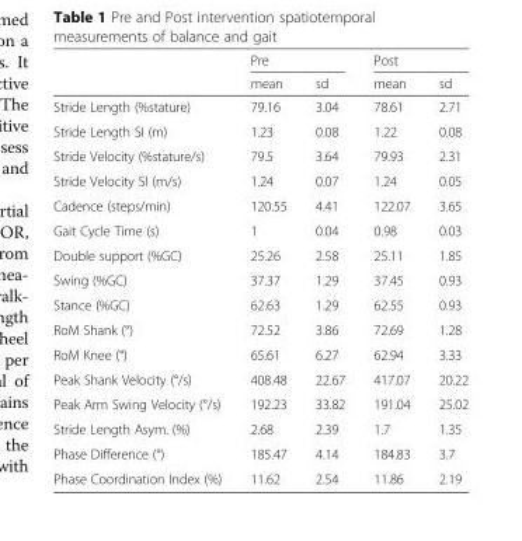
<table><thead><tr><td rowspan="2"></td><td colspan="2">Pre</td><td colspan="2">Post</td></tr><tr><td>mean</td><td>sd</td><td>mean</td><td>sd</td></tr></thead><tbody><tr><td>Stride Length (%stature)</td><td>79.16</td><td>3.04</td><td>78.61</td><td>2.71</td></tr><tr><td>Stride Length SI (m)</td><td>1.23</td><td>0.08</td><td>1.22</td><td>0.08</td></tr><tr><td>Stride Velocity (%stature/s)</td><td>79.5</td><td>3.64</td><td>79.93</td><td>2.31</td></tr><tr><td>Stride Velocity SI (m/s)</td><td>1.24</td><td>0.07</td><td>1.24</td><td>0.05</td></tr><tr><td>Cadence (steps/min)</td><td>120.55</td><td>4.41</td><td>122.07</td><td>3.65</td></tr><tr><td>Gait Cycle Time (s)</td><td>1</td><td>0.04</td><td>0.98</td><td>0.03</td></tr><tr><td>Double support (%GC)</td><td>25.26</td><td>2.58</td><td>25.11</td><td>1.85</td></tr><tr><td>Swing (%GC)</td><td>37.37</td><td>1.29</td><td>37.45</td><td>0.93</td></tr><tr><td>Stance (%GC)</td><td>62.63</td><td>1.29</td><td>62.55</td><td>0.93</td></tr><tr><td>RoM Shank (°)</td><td>72.52</td><td>3.86</td><td>72.69</td><td>1.28</td></tr><tr><td>RoM Knee (°)</td><td>65.61</td><td>6.27</td><td>62.94</td><td>3.33</td></tr><tr><td>Peak Shank Velocity (°/s)</td><td>408.48</td><td>22.67</td><td>417.07</td><td>20.22</td></tr><tr><td>Peak Arm Swing Velocity (°/s)</td><td>192.23</td><td>33.82</td><td>191.04</td><td>25.02</td></tr><tr><td>Stride Length Asym. (%)</td><td>2.68</td><td>2.39</td><td>1.7</td><td>1.35</td></tr><tr><td>Phase Difference (°)</td><td>185.47</td><td>4.14</td><td>184.83</td><td>3.7</td></tr><tr><td>Phase Coordination Index (%)</td><td>11.62</td><td>2.54</td><td>11.86</td><td>2.19</td></tr></tbody></table>